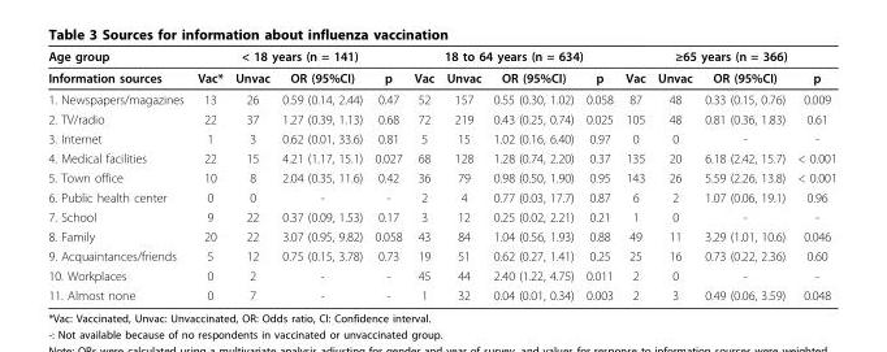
<table><thead><tr><td rowspan="2">Age group Information sources</td><td colspan="4">&lt; 18 years (n = 141)</td><td colspan="4">18 to 64 years (n = 634)</td><td colspan="4">≥65 years (n = 366)</td></tr><tr><td>Vac*</td><td>Unvac</td><td>OR (95%CI)</td><td>p</td><td>Vac</td><td>Unvac</td><td>OR (95%CI)</td><td>p</td><td>Vac</td><td>Unvac</td><td>OR (95%CI)</td><td>p</td></tr></thead><tbody><tr><td>1. Newspapers/magazines</td><td>13</td><td>26</td><td>0.59 (0.14, 2.44)</td><td>0.47</td><td>52</td><td>157</td><td>0.55 (0.30, 1.02)</td><td>0.058</td><td>87</td><td>48</td><td>0.33 (0.15, 0.76)</td><td>0.009</td></tr><tr><td>2. TV/radio</td><td>22</td><td>37</td><td>1.27 (0.39, 1.13)</td><td>0.68</td><td>72</td><td>219</td><td>0.43 (0.25, 0.74)</td><td>0.025</td><td>105</td><td>48</td><td>0.81 (0.36, 1.83)</td><td>0.61</td></tr><tr><td>3. Internet</td><td>1</td><td>3</td><td>0.62 (0.01, 33.6)</td><td>0.81</td><td>5</td><td>15</td><td>1.02 (0.16, 6.40)</td><td>0.97</td><td>0</td><td>0</td><td>-</td><td>-</td></tr><tr><td>4. Medical facilities</td><td>22</td><td>15</td><td>4.21 (1.17, 15.1)</td><td>0.027</td><td>68</td><td>128</td><td>1.28 (0.74, 2.20)</td><td>0.37</td><td>135</td><td>20</td><td>6.18 (2.42, 15.7)</td><td>&lt; 0.001</td></tr><tr><td>5. Town office</td><td>10</td><td>8</td><td>2.04 (0.35, 11.6)</td><td>0.42</td><td>36</td><td>79</td><td>0.98 (0.50, 1.90)</td><td>0.95</td><td>143</td><td>26</td><td>5.59 (2.26, 13.8)</td><td>&lt; 0.001</td></tr><tr><td>6. Public health center</td><td>0</td><td>0</td><td>-</td><td>-</td><td>2</td><td>4</td><td>0.77 (0.03, 17.7)</td><td>0.87</td><td>6</td><td>2</td><td>1.07 (0.06, 19.1)</td><td>0.96</td></tr><tr><td>7. School</td><td>9</td><td>22</td><td>0.37 (0.09, 1.53)</td><td>0.17</td><td>3</td><td>12</td><td>0.25 (0.02, 2.21)</td><td>0.21</td><td>1</td><td>0</td><td>-</td><td>-</td></tr><tr><td>8. Family</td><td>20</td><td>22</td><td>3.07 (0.95, 9.82)</td><td>0.058</td><td>43</td><td>84</td><td>1.04 (0.56, 1.93)</td><td>0.88</td><td>49</td><td>11</td><td>3.29 (1.01, 10.6)</td><td>0.046</td></tr><tr><td>9. Acquaintances/friends</td><td>5</td><td>12</td><td>0.75 (0.15, 3.78)</td><td>0.73</td><td>19</td><td>51</td><td>0.62 (0.27, 1.41)</td><td>0.25</td><td>25</td><td>16</td><td>0.73 (0.22, 2.36)</td><td>0.60</td></tr><tr><td>10. Workplaces</td><td>0</td><td>2</td><td>-</td><td>-</td><td>45</td><td>44</td><td>2.40 (1.22, 4.75)</td><td>0.011</td><td>2</td><td>0</td><td>-</td><td>-</td></tr><tr><td>11. Almost none</td><td>0</td><td>7</td><td>-</td><td>-</td><td>1</td><td>32</td><td>0.04 (0.01, 0.34)</td><td>0.003</td><td>2</td><td>3</td><td>0.49 (0.06, 3.59)</td><td>0.048</td></tr></tbody></table>